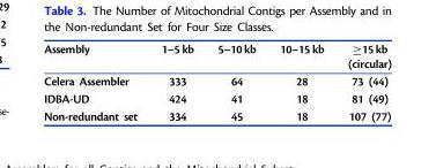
<table><thead><tr><td>Assembly</td><td>1–5kb</td><td>5–10kb</td><td>10–15kb</td><td>≥15kb (circular)</td></tr></thead><tbody><tr><td>Celera Assembler</td><td>333</td><td>64</td><td>28</td><td>73 (44)</td></tr><tr><td>IDBA-UD</td><td>424</td><td>41</td><td>18</td><td>81 (49)</td></tr><tr><td>Non-redundant set</td><td>334</td><td>45</td><td>18</td><td>107 (77)</td></tr></tbody></table>